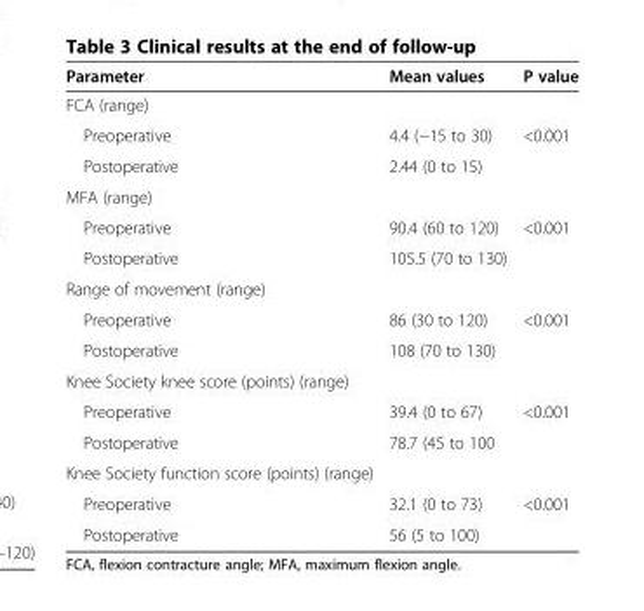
<table><thead><tr><td>Parameter</td><td>Mean values</td><td>P value</td></tr></thead><tbody><tr><td colspan="3">FCA (range)</td></tr><tr><td>Preoperative</td><td>4.4 (−15 to 30)</td><td>&lt;0.001</td></tr><tr><td>Postoperative</td><td>2.44 (0 to 15)</td><td></td></tr><tr><td colspan="3">MFA (range)</td></tr><tr><td>Preoperative</td><td>90.4 (60 to 120)</td><td>&lt;0.001</td></tr><tr><td>Postoperative</td><td>105.5 (70 to 130)</td><td></td></tr><tr><td colspan="3">Range of movement (range)</td></tr><tr><td>Preoperative</td><td>86 (30 to 120)</td><td>&lt;0.001</td></tr><tr><td>Postoperative</td><td>108 (70 to 130)</td><td></td></tr><tr><td colspan="3">Knee Society knee score (points) (range)</td></tr><tr><td>Preoperative</td><td>39.4 (0 to 67)</td><td>&lt;0.001</td></tr><tr><td>Postoperative</td><td>78.7 (45 to 100</td><td></td></tr><tr><td colspan="3">Knee Society function score (points) (range)</td></tr><tr><td>Preoperative</td><td>32.1 (0 to 73)</td><td>&lt;0.001</td></tr><tr><td>Postoperative</td><td>56 (5 to 100)</td><td></td></tr></tbody></table>